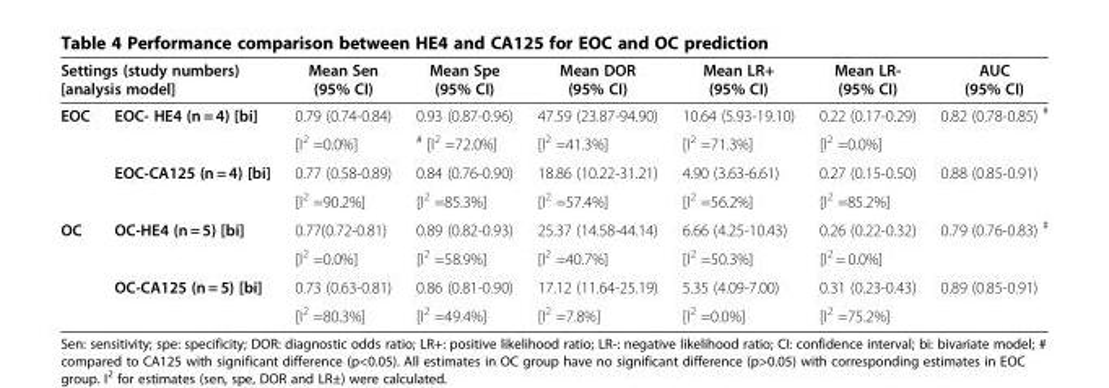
<table><thead><tr><td colspan="2">Settings (study numbers) [analysis model]</td><td rowspan="2">Mean Sen (95% CI) 0.79 (0.74-0.84)</td><td rowspan="2">Mean Spe (95% CI) 0.93 (0.87-0.96)</td><td rowspan="2">Mean DOR (95% CI) 47.59 (23.87-94.90)</td><td rowspan="2">Mean LR+ (95% CI) 10.64 (5.93-19.10)</td><td rowspan="2">Mean LR- (95% CI) 0.22 (0.17-0.29)</td><td rowspan="2">AUC (95% CI) 0.82 (0.78-0.85) <sup>#</sup></td></tr><tr><td>EOC</td><td>EOC- HE4 (n = 4) [bi]</td></tr></thead><tbody><tr><td></td><td></td><td>[I<sup>2</sup> =0.0%]</td><td><sup>#</sup> [I<sup>2</sup> =72.0%]</td><td>[I<sup>2</sup> =41.3%]</td><td>[I<sup>2</sup> =71.3%]</td><td>[I<sup>2</sup> =0.0%]</td><td></td></tr><tr><td></td><td>EOC-CA125 (n = 4) [bi]</td><td>0.77 (0.58-0.89)</td><td>0.84 (0.76-0.90)</td><td>18.86 (10.22-31.21)</td><td>4.90 (3.63-6.61)</td><td>0.27 (0.15-0.50)</td><td>0.88 (0.85-0.91)</td></tr><tr><td></td><td></td><td>[I<sup>2</sup> =90.2%]</td><td>[I<sup>2</sup> =85.3%]</td><td>[I<sup>2</sup> =57.4%]</td><td>[I<sup>2</sup> =56.2%]</td><td>[I<sup>2</sup> =85.2%]</td><td></td></tr><tr><td rowspan="4">OC</td><td>OC-HE4 (n = 5) [bi]</td><td>0.77(0.72-0.81)</td><td>0.89 (0.82-0.93)</td><td>25.37 (14.58-44.14)</td><td>6.66 (4.25-10.43)</td><td>0.26 (0.22-0.32)</td><td>0.79 (0.76-0.83) <sup>#</sup></td></tr><tr><td></td><td>[I<sup>2</sup> =0.0%]</td><td>[I<sup>2</sup> =58.9%]</td><td>[I<sup>2</sup> =40.7%]</td><td>[I<sup>2</sup> =50.3%]</td><td>[I<sup>2</sup> = 0.0%]</td><td></td></tr><tr><td>OC-CA125 (n = 5) [bi]</td><td>0.73 (0.63-0.81)</td><td>0.86 (0.81-0.90)</td><td>17.12 (11.64-25.19)</td><td>5.35 (4.09-7.00)</td><td>0.31 (0.23-0.43)</td><td>0.89 (0.85-0.91)</td></tr><tr><td></td><td>[I<sup>2</sup> =80.3%]</td><td>[I<sup>2</sup> =49.4%]</td><td>[I<sup>2</sup> =7.8%]</td><td>[I<sup>2</sup> =0.0%]</td><td>[I<sup>2</sup> =75.2%]</td><td></td></tr></tbody></table>